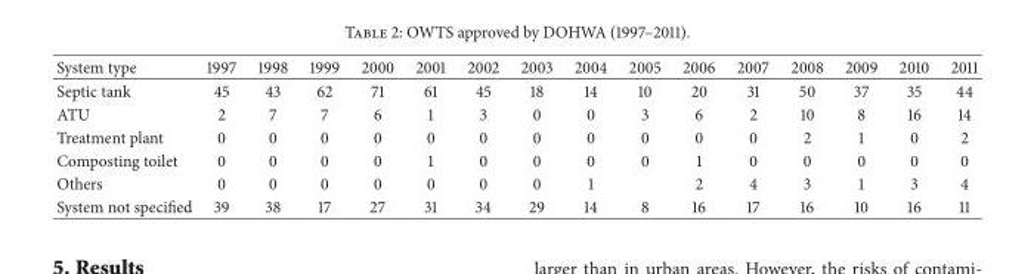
<table><thead><tr><td>System type</td><td>1997</td><td>1998</td><td>1999</td><td>2000</td><td>2001</td><td>2002</td><td>2003</td><td>2004</td><td>2005</td><td>2006</td><td>2007</td><td>2008</td><td>2009</td><td>2010</td><td>2011</td></tr></thead><tbody><tr><td>Septic tank</td><td>45</td><td>43</td><td>62</td><td>71</td><td>61</td><td>45</td><td>18</td><td>14</td><td>10</td><td>20</td><td>31</td><td>50</td><td>37</td><td>35</td><td>44</td></tr><tr><td>ATU</td><td>2</td><td>7</td><td>7</td><td>6</td><td>1</td><td>3</td><td>0</td><td>0</td><td>3</td><td>6</td><td>2</td><td>10</td><td>8</td><td>16</td><td>14</td></tr><tr><td>Treatment plant</td><td>0</td><td>0</td><td>0</td><td>0</td><td>0</td><td>0</td><td>0</td><td>0</td><td>0</td><td>0</td><td>0</td><td>2</td><td>1</td><td>0</td><td>2</td></tr><tr><td>Composting toilet</td><td>0</td><td>0</td><td>0</td><td>0</td><td>1</td><td>0</td><td>0</td><td>0</td><td>0</td><td>1</td><td>0</td><td>0</td><td>0</td><td>0</td><td>0</td></tr><tr><td>Others</td><td>0</td><td>0</td><td>0</td><td>0</td><td>0</td><td>0</td><td>0</td><td>1</td><td></td><td>2</td><td>4</td><td>3</td><td>1</td><td>3</td><td>4</td></tr><tr><td>System not specified</td><td>39</td><td>38</td><td>17</td><td>27</td><td>31</td><td>34</td><td>29</td><td>14</td><td>8</td><td>16</td><td>17</td><td>16</td><td>10</td><td>16</td><td>11</td></tr></tbody></table>